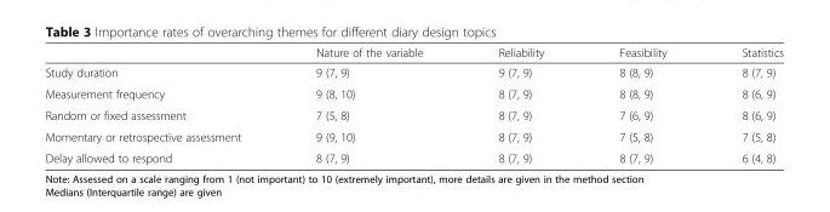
<table><thead><tr><td></td><td>Nature of the variable</td><td>Reliability</td><td>Feasibility</td><td>Statistics</td></tr></thead><tbody><tr><td>Study duration</td><td>9 (7, 9)</td><td>9 (7, 9)</td><td>8 (8, 9)</td><td>8 (7, 9)</td></tr><tr><td>Measurement frequency</td><td>9 (8, 10)</td><td>8 (7, 9)</td><td>8 (8, 9)</td><td>8 (6, 9)</td></tr><tr><td>Random or fixed assessment</td><td>7 (5, 8)</td><td>8 (7, 9)</td><td>7 (6, 9)</td><td>8 (6, 9)</td></tr><tr><td>Momentary or retrospective assessment</td><td>9 (9, 10)</td><td>8 (7, 9)</td><td>7 (5, 8)</td><td>7 (5, 8)</td></tr><tr><td>Delay allowed to respond</td><td>8 (7, 9)</td><td>8 (7, 9)</td><td>8 (7, 9)</td><td>6 (4, 8)</td></tr></tbody></table>